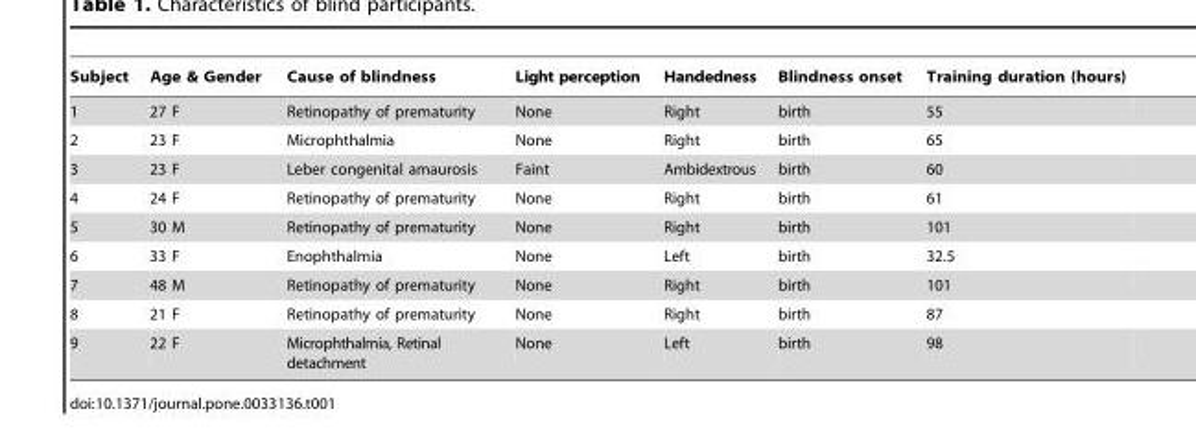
<table><thead><tr><td>Subject</td><td>Age &amp; Gender</td><td>Cause of blindness</td><td>Light perception</td><td>Handedness</td><td>Blindness onset</td><td>Training duration (hours)</td></tr></thead><tbody><tr><td>1</td><td>27 F</td><td>Retinopathy of prematurity</td><td>None</td><td>Right</td><td>birth</td><td>55</td></tr><tr><td>2</td><td>23 F</td><td>Microphthalmia</td><td>None</td><td>Right</td><td>birth</td><td>65</td></tr><tr><td>3</td><td>23 F</td><td>Leber congenital amaurosis</td><td>Faint</td><td>Ambidextrous</td><td>birth</td><td>60</td></tr><tr><td>4</td><td>24 F</td><td>Retinopathy of prematurity</td><td>None</td><td>Right</td><td>birth</td><td>61</td></tr><tr><td>5</td><td>30 M</td><td>Retinopathy of prematurity</td><td>None</td><td>Right</td><td>birth</td><td>101</td></tr><tr><td>6</td><td>33 F</td><td>Enophthalmia</td><td>None</td><td>Left</td><td>birth</td><td>32.5</td></tr><tr><td>7</td><td>48 M</td><td>Retinopathy of prematurity</td><td>None</td><td>Right</td><td>birth</td><td>101</td></tr><tr><td>8</td><td>21 F</td><td>Retinopathy of prematurity</td><td>None</td><td>Right</td><td>birth</td><td>87</td></tr><tr><td>9</td><td>22 F</td><td>Microphthalmia, Retinal detachment</td><td>None</td><td>Left</td><td>birth</td><td>98</td></tr></tbody></table>